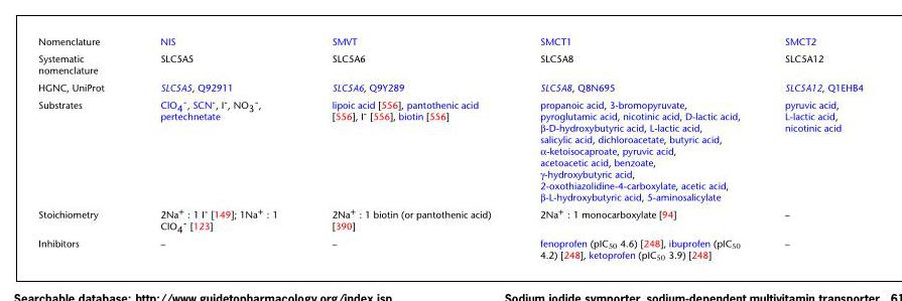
<table><tbody><tr><td>Nomenclature</td><td>NIS</td><td>SMVT</td><td>SMCT1</td><td>SMCT2</td></tr><tr><td>Systematic nomenclature</td><td>SLC5A5</td><td>SLC5A6</td><td>SLC5A8</td><td>SLC5A12</td></tr><tr><td>HGNC, UniProt</td><td>SLC5A5, Q92911</td><td>SLC5A6, Q9Y289</td><td>SLC5A8, Q8N695</td><td>SLC5A12, Q1EHB4</td></tr><tr><td>Substrates</td><td>ClO<sub>4</sub><sup>-</sup>, SCN<sup>-</sup>, I<sup>-</sup>, NO<sub>3</sub><sup>-</sup>, pertechnetate</td><td>lipoic acid [556], pantothenic acid [556], I<sup>-</sup> [556], biotin [556]</td><td>propanoic acid, 3-bromopyruvate, pyroglutamic acid, nicotinic acid, D-lactic acid, β-D-hydroxybutyric acid, L-lactic acid, salicylic acid, dichloroacetate, butyric acid, α-ketoisocaproate, pyruvic acid, acetoacetic acid, benzoate, γ-hydroxybutyric acid, 2-oxothiazolidine-4-carboxylate, acetic acid, β-L-hydroxybutyric acid, 5-aminosalicylate</td><td>pyruvic acid, L-lactic acid, nicotinic acid</td></tr><tr><td>Stoichiometry</td><td>2Na<sup>+</sup> : 1 I<sup>-</sup> [149]; 1Na<sup>+</sup> : 1 ClO<sub>4</sub><sup>-</sup> [123]</td><td>2Na<sup>+</sup> : 1 biotin (or pantothenic acid) [390]</td><td>2Na<sup>+</sup> : 1 monocarboxylate [94]</td><td>–</td></tr><tr><td>Inhibitors</td><td>–</td><td>–</td><td>fenoprofen (pIC<sub>50</sub> 4.6) [248], ibuprofen (pIC<sub>50</sub> 4.2) [248], ketoprofen (pIC<sub>50</sub> 3.9) [248]</td><td>–</td></tr></tbody></table>